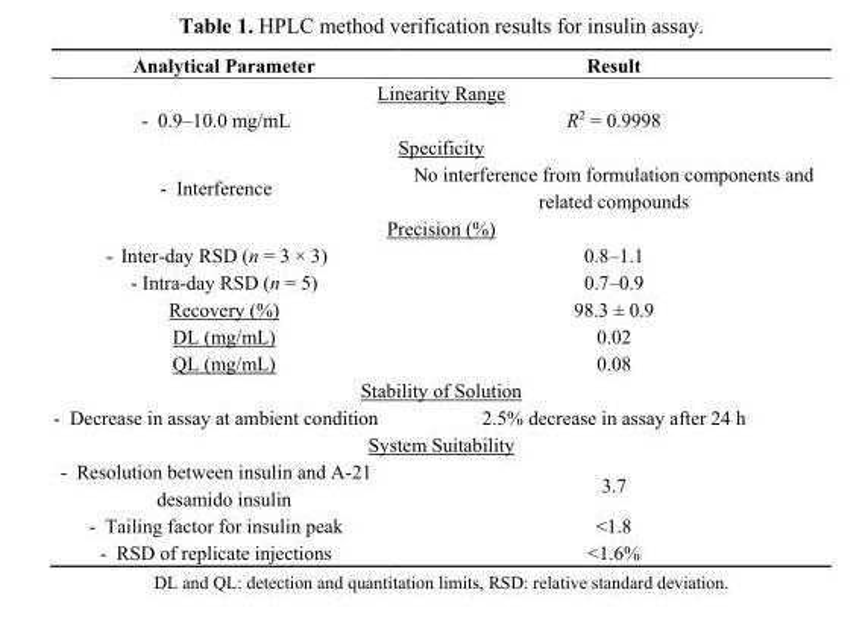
<table><thead><tr><td>Analytical Parameter</td><td>Result</td></tr></thead><tbody><tr><td colspan="2">Linearity Range</td></tr><tr><td>- 0.9–10.0 mg/mL</td><td>R<sup>2</sup> = 0.9998</td></tr><tr><td colspan="2">Specificity</td></tr><tr><td>- Interference</td><td>No interference from formulation components and related compounds</td></tr><tr><td colspan="2">Precision (%)</td></tr><tr><td>- Inter-day RSD (n = 3 × 3)</td><td>0.8–1.1</td></tr><tr><td>- Intra-day RSD (n = 5)</td><td>0.7–0.9</td></tr><tr><td>Recovery (%)</td><td>98.3 ± 0.9</td></tr><tr><td>DL (mg/mL)</td><td>0.02</td></tr><tr><td>QL (mg/mL)</td><td>0.08</td></tr><tr><td colspan="2">Stability of Solution</td></tr><tr><td>- Decrease in assay at ambient condition</td><td>2.5% decrease in assay after 24 h</td></tr><tr><td colspan="2">System Suitability</td></tr><tr><td>- Resolution between insulin and A-21 desamido insulin</td><td>3.7</td></tr><tr><td>- Tailing factor for insulin peak</td><td>&lt;1.8</td></tr><tr><td>- RSD of replicate injections</td><td>&lt;1.6%</td></tr></tbody></table>